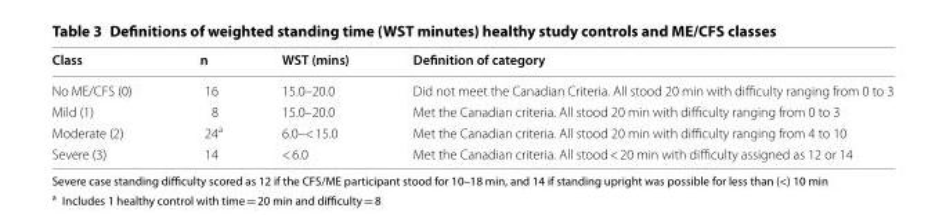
<table><thead><tr><td>Class</td><td>n</td><td>WST (mins)</td><td>Definition of category</td></tr></thead><tbody><tr><td>No ME/CFS (0)</td><td>16</td><td>15.0–20.0</td><td>Did not meet the Canadian Criteria. All stood 20 min with difficulty ranging from 0 to 3</td></tr><tr><td>Mild (1)</td><td>8</td><td>15.0–20.0</td><td>Met the Canadian criteria. All stood 20 min with difficulty ranging from 0 to 3</td></tr><tr><td>Moderate (2)</td><td>24<sup>a</sup></td><td>6.0–&lt; 15.0</td><td>Met the Canadian criteria. All stood 20 min with difficulty ranging from 4 to 10</td></tr><tr><td>Severe (3)</td><td>14</td><td>&lt; 6.0</td><td>Met the Canadian criteria. All stood &lt; 20 min with difficulty assigned as 12 or 14</td></tr></tbody></table>